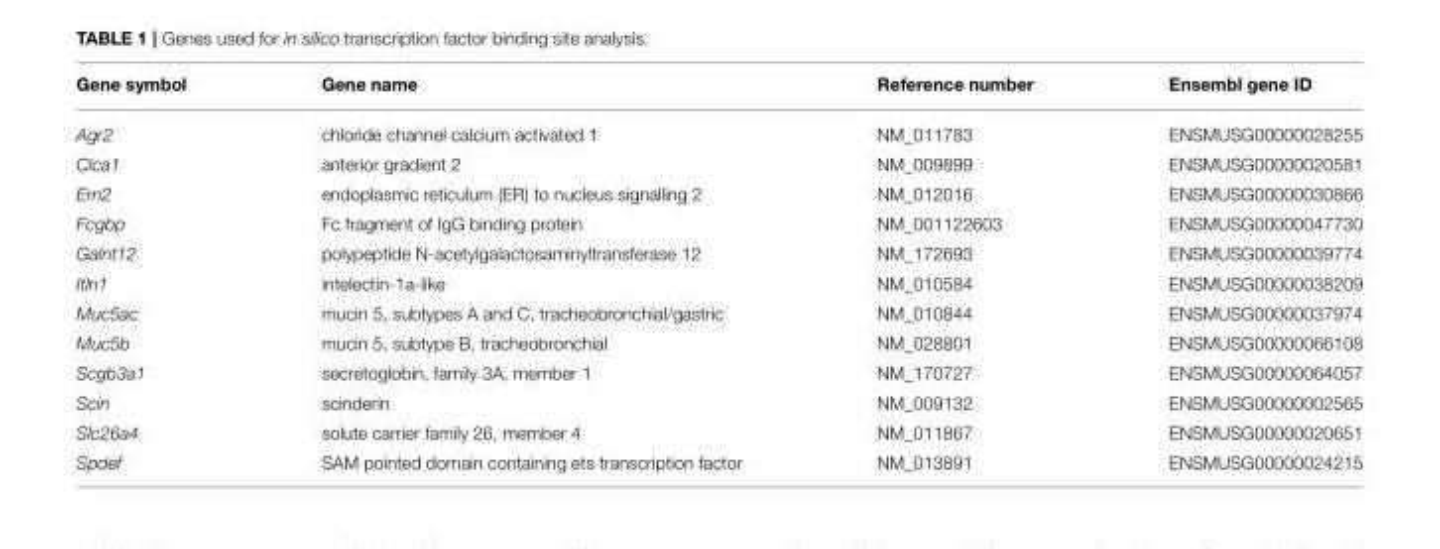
<table><thead><tr><td>Gene symbol</td><td>Gene name</td><td>Reference number</td><td>Ensembl gene ID</td></tr></thead><tbody><tr><td>Agr2</td><td>chloride channel calcium activated 1</td><td>NM_011783</td><td>ENSMUSG00000028255</td></tr><tr><td>Clca1</td><td>anterior gradient 2</td><td>NM_009899</td><td>ENSMUSG00000020581</td></tr><tr><td>Ern2</td><td>endoplasmic reticulum (ER) to nucleus signalling 2</td><td>NM_012016</td><td>ENSMUSG00000030866</td></tr><tr><td>Fcgbp</td><td>Fc fragment of IgG binding protein</td><td>NM_001122603</td><td>ENSMUSG00000047730</td></tr><tr><td>Galnt12</td><td>polypeptide N-acetylgalactosaminyltransferase 12</td><td>NM_172693</td><td>ENSMUSG00000039774</td></tr><tr><td>Itln1</td><td>intelectin-1a-like</td><td>NM_010584</td><td>ENSMUSG00000038209</td></tr><tr><td>Muc5ac</td><td>mucin 5, subtypes A and C, tracheobronchial/gastric</td><td>NM_010844</td><td>ENSMUSG00000037974</td></tr><tr><td>Muc5b</td><td>mucin 5, subtype B, tracheobronchial</td><td>NM_028801</td><td>ENSMUSG00000066108</td></tr><tr><td>Scgb3a1</td><td>secretoglobin, family 3A, member 1</td><td>NM_170727</td><td>ENSMUSG00000064057</td></tr><tr><td>Scin</td><td>scinderin</td><td>NM_009132</td><td>ENSMUSG00000002565</td></tr><tr><td>Slc26a4</td><td>solute carrier family 26, member 4</td><td>NM_011867</td><td>ENSMUSG00000020651</td></tr><tr><td>Spdef</td><td>SAM pointed domain containing ets transcription factor</td><td>NM_013891</td><td>ENSMUSG00000024215</td></tr></tbody></table>